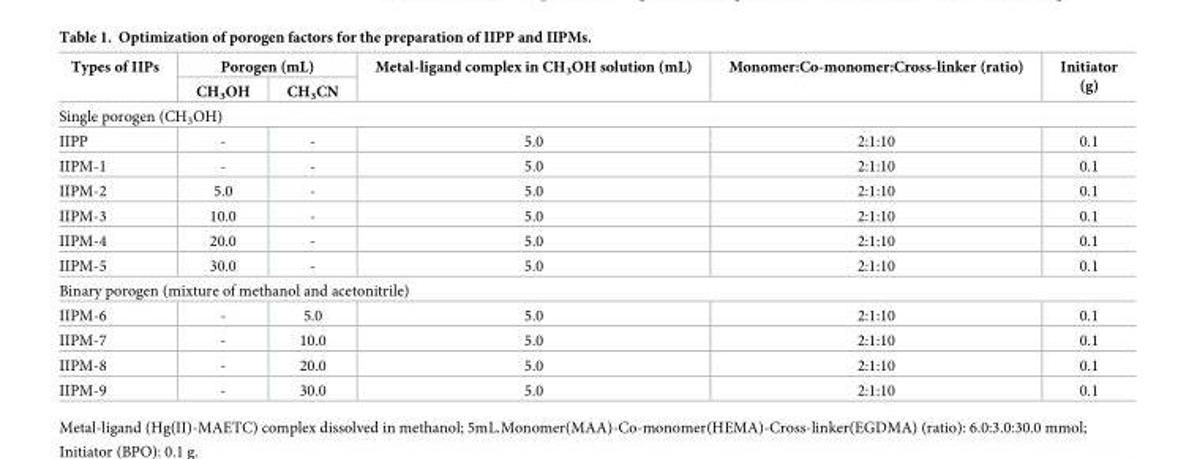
<table><thead><tr><td rowspan="2">Types of IIPs</td><td colspan="2">Porogen (mL)</td><td rowspan="2">Metal-ligand complex in CH<sub>3</sub>OH solution (mL)</td><td rowspan="2">Monomer:Co-monomer:Cross-linker (ratio)</td><td rowspan="2">Initiator (g)</td></tr><tr><td>CH<sub>3</sub>OH</td><td>CH<sub>3</sub>CN</td></tr></thead><tbody><tr><td colspan="6">Single porogen (CH<sub>3</sub>OH)</td></tr><tr><td>IIPP</td><td>-</td><td>-</td><td>5.0</td><td>2:1:10</td><td>0.1</td></tr><tr><td>IIPM-1</td><td>-</td><td>-</td><td>5.0</td><td>2:1:10</td><td>0.1</td></tr><tr><td>IIPM-2</td><td>5.0</td><td>-</td><td>5.0</td><td>2:1:10</td><td>0.1</td></tr><tr><td>IIPM-3</td><td>10.0</td><td>-</td><td>5.0</td><td>2:1:10</td><td>0.1</td></tr><tr><td>IIPM-4</td><td>20.0</td><td>-</td><td>5.0</td><td>2:1:10</td><td>0.1</td></tr><tr><td>IIPM-5</td><td>30.0</td><td>-</td><td>5.0</td><td>2:1:10</td><td>0.1</td></tr><tr><td colspan="6">Binary porogen (mixture of methanol and acetonitrile)</td></tr><tr><td>IIPM-6</td><td>-</td><td>5.0</td><td>5.0</td><td>2:1:10</td><td>0.1</td></tr><tr><td>IIPM-7</td><td>-</td><td>10.0</td><td>5.0</td><td>2:1:10</td><td>0.1</td></tr><tr><td>IIPM-8</td><td>-</td><td>20.0</td><td>5.0</td><td>2:1:10</td><td>0.1</td></tr><tr><td>IIPM-9</td><td>-</td><td>30.0</td><td>5.0</td><td>2:1:10</td><td>0.1</td></tr></tbody></table>